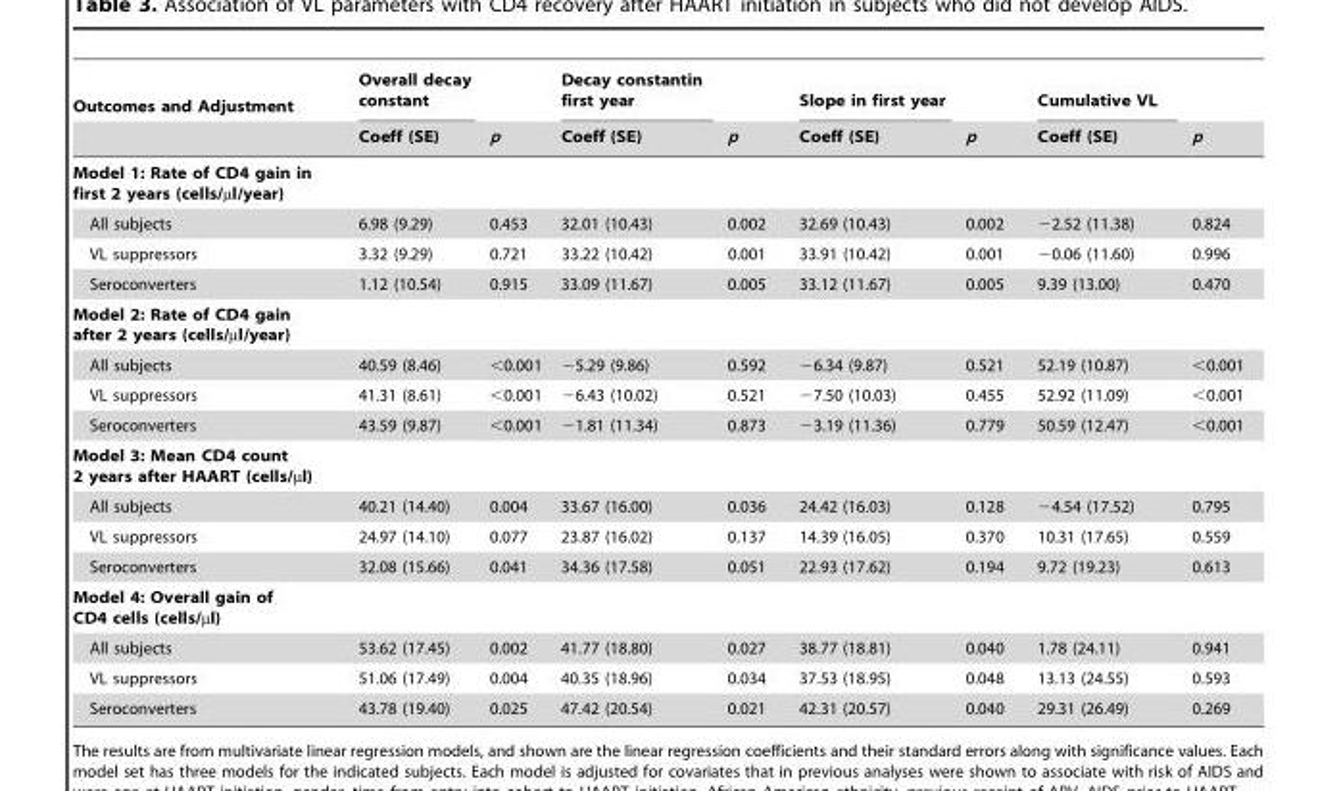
<table><thead><tr><td rowspan="2">Outcomes and Adjustment</td><td rowspan="2">Overall decay constant Coeff (SE)</td><td rowspan="2">p</td><td rowspan="2">Decay constantin first year Coeff (SE)</td><td rowspan="2">p</td><td rowspan="2">Slope in first year Coeff (SE)</td><td rowspan="2">p</td><td rowspan="2">Cumulative VL Coeff (SE)</td><td rowspan="2">p</td></tr><tr></tr></thead><tbody><tr><td colspan="9">Model 1: Rate of CD4 gain in first 2 years (cells/µl/year)</td></tr><tr><td>All subjects</td><td>6.98 (9.29)</td><td>0.453</td><td>32.01 (10.43)</td><td>0.002</td><td>32.69 (10.43)</td><td>0.002</td><td>−2.52 (11.38)</td><td>0.824</td></tr><tr><td>VL suppressors</td><td>3.32 (9.29)</td><td>0.721</td><td>33.22 (10.42)</td><td>0.001</td><td>33.91 (10.42)</td><td>0.001</td><td>−0.06 (11.60)</td><td>0.996</td></tr><tr><td>Seroconverters</td><td>1.12 (10.54)</td><td>0.915</td><td>33.09 (11.67)</td><td>0.005</td><td>33.12 (11.67)</td><td>0.005</td><td>9.39 (13.00)</td><td>0.470</td></tr><tr><td colspan="9">Model 2: Rate of CD4 gain after 2 years (cells/µl/year)</td></tr><tr><td>All subjects</td><td>40.59 (8.46)</td><td>&lt;0.001</td><td>−5.29 (9.86)</td><td>0.592</td><td>−6.34 (9.87)</td><td>0.521</td><td>52.19 (10.87)</td><td>&lt;0.001</td></tr><tr><td>VL suppressors</td><td>41.31 (8.61)</td><td>&lt;0.001</td><td>−6.43 (10.02)</td><td>0.521</td><td>−7.50 (10.03)</td><td>0.455</td><td>52.92 (11.09)</td><td>&lt;0.001</td></tr><tr><td>Seroconverters</td><td>43.59 (9.87)</td><td>&lt;0.001</td><td>−1.81 (11.34)</td><td>0.873</td><td>−3.19 (11.36)</td><td>0.779</td><td>50.59 (12.47)</td><td>&lt;0.001</td></tr><tr><td colspan="9">Model 3: Mean CD4 count 2 years after HAART (cells/µl)</td></tr><tr><td>All subjects</td><td>40.21 (14.40)</td><td>0.004</td><td>33.67 (16.00)</td><td>0.036</td><td>24.42 (16.03)</td><td>0.128</td><td>−4.54 (17.52)</td><td>0.795</td></tr><tr><td>VL suppressors</td><td>24.97 (14.10)</td><td>0.077</td><td>23.87 (16.02)</td><td>0.137</td><td>14.39 (16.05)</td><td>0.370</td><td>10.31 (17.65)</td><td>0.559</td></tr><tr><td>Seroconverters</td><td>32.08 (15.66)</td><td>0.041</td><td>34.36 (17.58)</td><td>0.051</td><td>22.93 (17.62)</td><td>0.194</td><td>9.72 (19.23)</td><td>0.613</td></tr><tr><td colspan="9">Model 4: Overall gain of CD4 cells (cells/µl)</td></tr><tr><td>All subjects</td><td>53.62 (17.45)</td><td>0.002</td><td>41.77 (18.80)</td><td>0.027</td><td>38.77 (18.81)</td><td>0.040</td><td>1.78 (24.11)</td><td>0.941</td></tr><tr><td>VL suppressors</td><td>51.06 (17.49)</td><td>0.004</td><td>40.35 (18.96)</td><td>0.034</td><td>37.53 (18.95)</td><td>0.048</td><td>13.13 (24.55)</td><td>0.593</td></tr><tr><td>Seroconverters</td><td>43.78 (19.40)</td><td>0.025</td><td>47.42 (20.54)</td><td>0.021</td><td>42.31 (20.57)</td><td>0.040</td><td>29.31 (26.49)</td><td>0.269</td></tr></tbody></table>